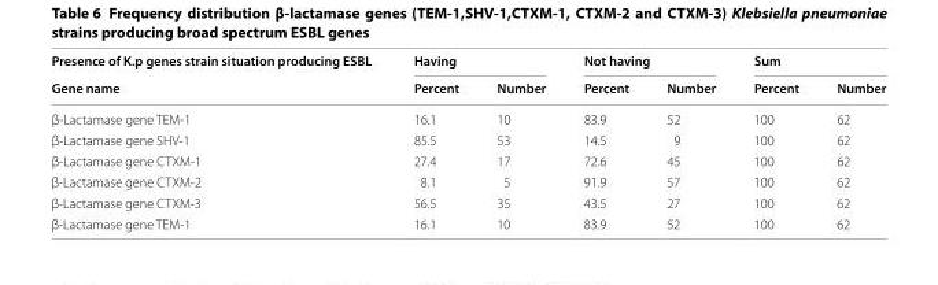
<table><thead><tr><td rowspan="2">Presence of K.p genes strain situation producing ESBL Gene name</td><td colspan="2">Having</td><td colspan="2">Not having</td><td colspan="2">Sum</td></tr><tr><td>Percent</td><td>Number</td><td>Percent</td><td>Number</td><td>Percent</td><td>Number</td></tr></thead><tbody><tr><td>β-Lactamase gene TEM-1</td><td>16.1</td><td>10</td><td>83.9</td><td>52</td><td>100</td><td>62</td></tr><tr><td>β-Lactamase gene SHV-1</td><td>85.5</td><td>53</td><td>14.5</td><td>9</td><td>100</td><td>62</td></tr><tr><td>β-Lactamase gene CTXM-1</td><td>27.4</td><td>17</td><td>72.6</td><td>45</td><td>100</td><td>62</td></tr><tr><td>β-Lactamase gene CTXM-2</td><td>8.1</td><td>5</td><td>91.9</td><td>57</td><td>100</td><td>62</td></tr><tr><td>β-Lactamase gene CTXM-3</td><td>56.5</td><td>35</td><td>43.5</td><td>27</td><td>100</td><td>62</td></tr><tr><td>β-Lactamase gene TEM-1</td><td>16.1</td><td>10</td><td>83.9</td><td>52</td><td>100</td><td>62</td></tr></tbody></table>